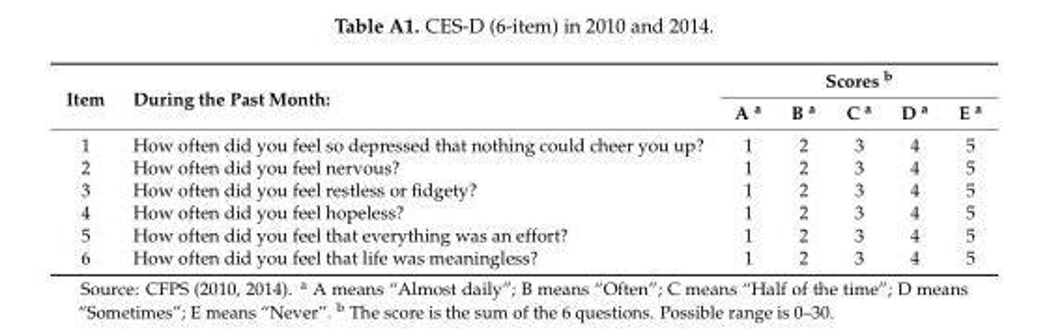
<table><thead><tr><td rowspan="2">Item</td><td rowspan="2">During the Past Month:</td><td colspan="5">Scores <sup>b</sup></td></tr><tr><td>A <sup>a</sup></td><td>B <sup>a</sup></td><td>C <sup>a</sup></td><td>D <sup>a</sup></td><td>E <sup>a</sup></td></tr></thead><tbody><tr><td>1</td><td>How often did you feel so depressed that nothing could cheer you up?</td><td>1</td><td>2</td><td>3</td><td>4</td><td>5</td></tr><tr><td>2</td><td>How often did you feel nervous?</td><td>1</td><td>2</td><td>3</td><td>4</td><td>5</td></tr><tr><td>3</td><td>How often did you feel restless or fidgety?</td><td>1</td><td>2</td><td>3</td><td>4</td><td>5</td></tr><tr><td>4</td><td>How often did you feel hopeless?</td><td>1</td><td>2</td><td>3</td><td>4</td><td>5</td></tr><tr><td>5</td><td>How often did you feel that everything was an effort?</td><td>1</td><td>2</td><td>3</td><td>4</td><td>5</td></tr><tr><td>6</td><td>How often did you feel that life was meaningless?</td><td>1</td><td>2</td><td>3</td><td>4</td><td>5</td></tr></tbody></table>